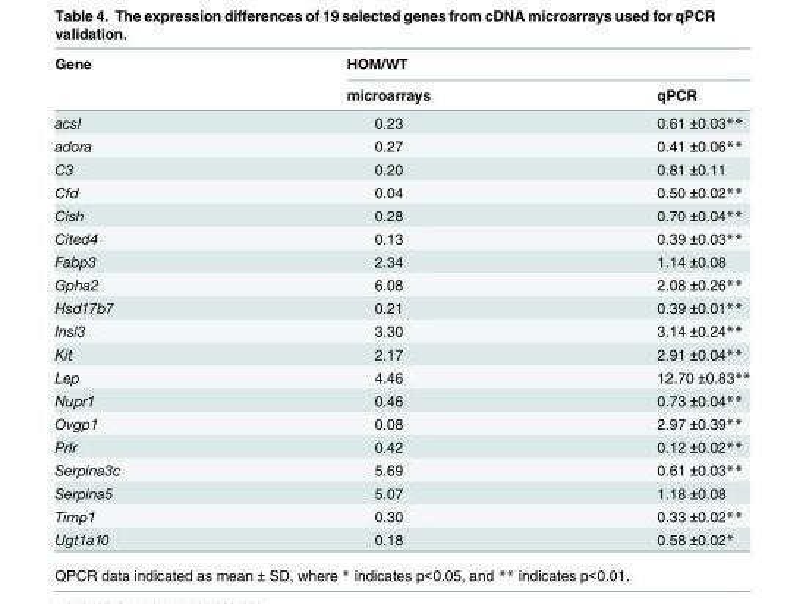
<table><thead><tr><td rowspan="2">Gene</td><td colspan="2">HOM/WT</td></tr><tr><td>microarrays</td><td>qPCR</td></tr></thead><tbody><tr><td>acsl</td><td>0.23</td><td>0.61 ±0.03**</td></tr><tr><td>adora</td><td>0.27</td><td>0.41 ±0.06**</td></tr><tr><td>C3</td><td>0.20</td><td>0.81 ±0.11</td></tr><tr><td>Cfd</td><td>0.04</td><td>0.50 ±0.02**</td></tr><tr><td>Cish</td><td>0.28</td><td>0.70 ±0.04**</td></tr><tr><td>Cited4</td><td>0.13</td><td>0.39 ±0.03**</td></tr><tr><td>Fabp3</td><td>2.34</td><td>1.14 ±0.08</td></tr><tr><td>Gpha2</td><td>6.08</td><td>2.08 ±0.26**</td></tr><tr><td>Hsd17b7</td><td>0.21</td><td>0.39 ±0.01**</td></tr><tr><td>Insl3</td><td>3.30</td><td>3.14 ±0.24**</td></tr><tr><td>Kit</td><td>2.17</td><td>2.91 ±0.04**</td></tr><tr><td>Lep</td><td>4.46</td><td>12.70 ±0.83**</td></tr><tr><td>Nupr1</td><td>0.46</td><td>0.73 ±0.04**</td></tr><tr><td>Ovgp1</td><td>0.08</td><td>2.97 ±0.39**</td></tr><tr><td>Prlr</td><td>0.42</td><td>0.12 ±0.02**</td></tr><tr><td>Serpina3c</td><td>5.69</td><td>0.61 ±0.03**</td></tr><tr><td>Serpina5</td><td>5.07</td><td>1.18 ±0.08</td></tr><tr><td>Timp1</td><td>0.30</td><td>0.33 ±0.02**</td></tr><tr><td>Ugt1a10</td><td>0.18</td><td>0.58 ±0.02*</td></tr></tbody></table>